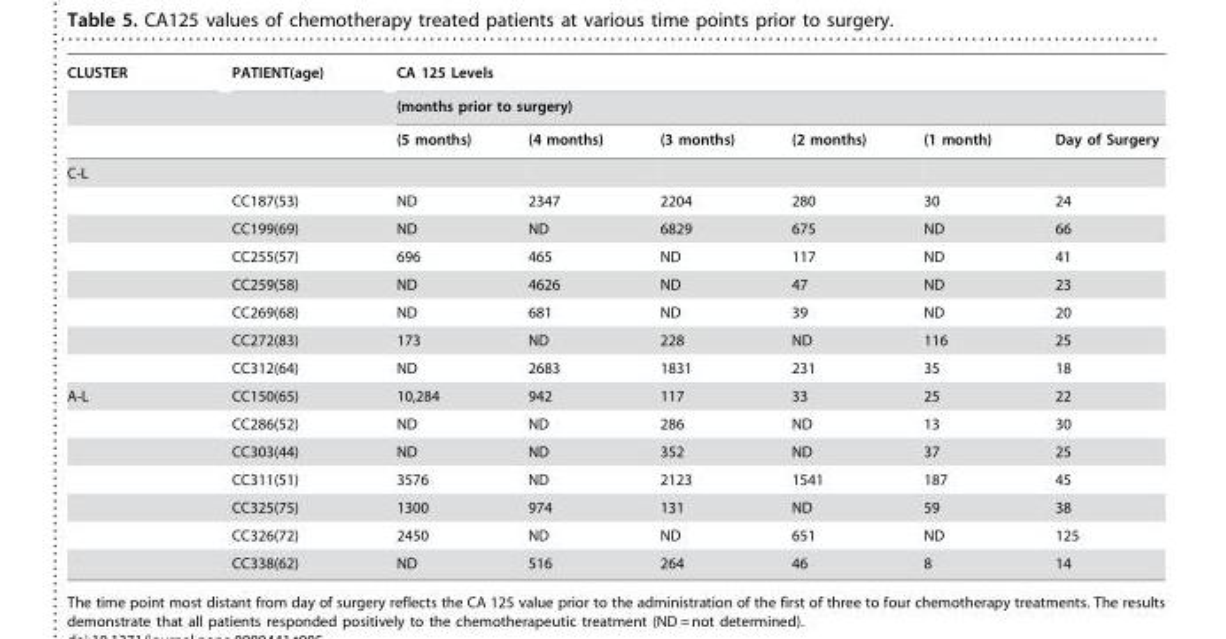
<table><thead><tr><td rowspan="3">CLUSTER</td><td rowspan="3">PATIENT(age)</td><td rowspan="2" colspan="6">CA 125 Levels (months prior to surgery)</td></tr><tr></tr><tr><td>(5 months)</td><td>(4 months)</td><td>(3 months)</td><td>(2 months)</td><td>(1 month)</td><td>Day of Surgery</td></tr></thead><tbody><tr><td colspan="8">C-L</td></tr><tr><td></td><td>CC187(53)</td><td>ND</td><td>2347</td><td>2204</td><td>280</td><td>30</td><td>24</td></tr><tr><td></td><td>CC199(69)</td><td>ND</td><td>ND</td><td>6829</td><td>675</td><td>ND</td><td>66</td></tr><tr><td></td><td>CC255(57)</td><td>696</td><td>465</td><td>ND</td><td>117</td><td>ND</td><td>41</td></tr><tr><td></td><td>CC259(58)</td><td>ND</td><td>4626</td><td>ND</td><td>47</td><td>ND</td><td>23</td></tr><tr><td></td><td>CC269(68)</td><td>ND</td><td>681</td><td>ND</td><td>39</td><td>ND</td><td>20</td></tr><tr><td></td><td>CC272(83)</td><td>173</td><td>ND</td><td>228</td><td>ND</td><td>116</td><td>25</td></tr><tr><td></td><td>CC312(64)</td><td>ND</td><td>2683</td><td>1831</td><td>231</td><td>35</td><td>18</td></tr><tr><td rowspan="7">A-L</td><td>CC150(65)</td><td>10,284</td><td>942</td><td>117</td><td>33</td><td>25</td><td>22</td></tr><tr><td>CC286(52)</td><td>ND</td><td>ND</td><td>286</td><td>ND</td><td>13</td><td>30</td></tr><tr><td>CC303(44)</td><td>ND</td><td>ND</td><td>352</td><td>ND</td><td>37</td><td>25</td></tr><tr><td>CC311(51)</td><td>3576</td><td>ND</td><td>2123</td><td>1541</td><td>187</td><td>45</td></tr><tr><td>CC325(75)</td><td>1300</td><td>974</td><td>131</td><td>ND</td><td>59</td><td>38</td></tr><tr><td>CC326(72)</td><td>2450</td><td>ND</td><td>ND</td><td>651</td><td>ND</td><td>125</td></tr><tr><td>CC338(62)</td><td>ND</td><td>516</td><td>264</td><td>46</td><td>8</td><td>14</td></tr></tbody></table>